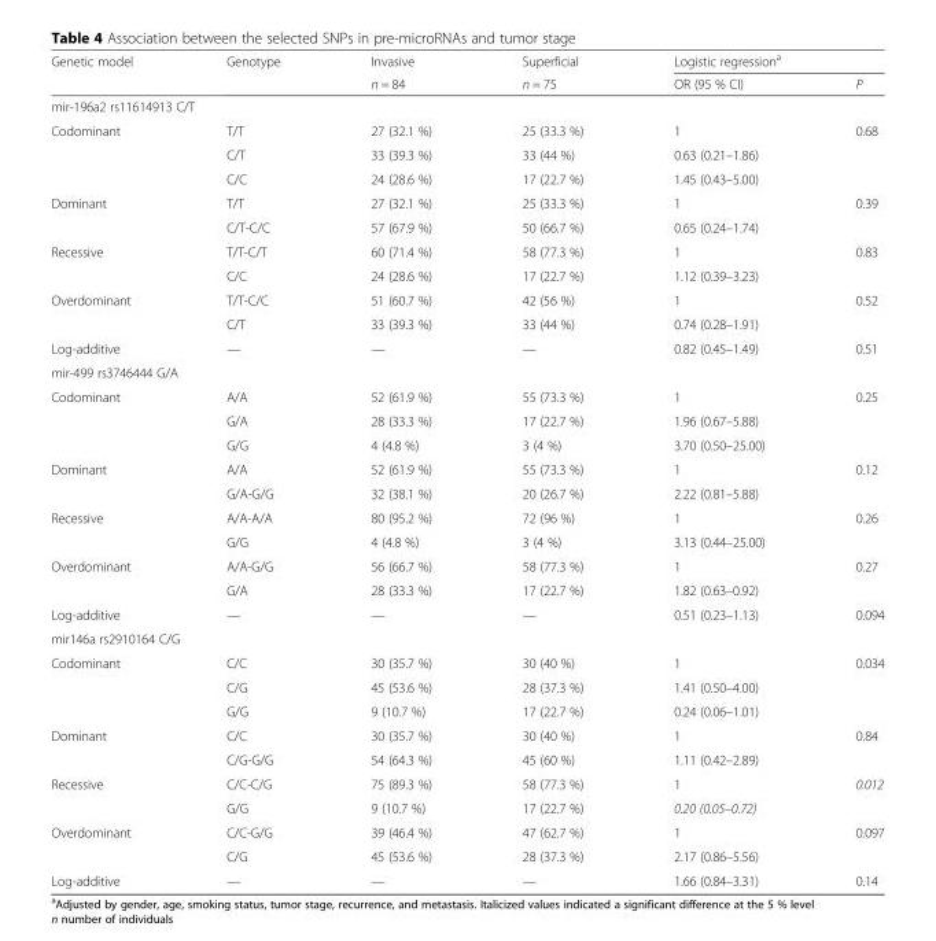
<table><thead><tr><td rowspan="2">Genetic model</td><td rowspan="2">Genotype</td><td rowspan="2">Invasive n = 84</td><td rowspan="2">Superficial n = 75</td><td colspan="2">Logistic regression<sup>a</sup></td></tr><tr><td>OR (95 % CI)</td><td>P</td></tr></thead><tbody><tr><td colspan="6">mir-196a2 rs11614913 C/T</td></tr><tr><td rowspan="3">Codominant</td><td>T/T</td><td>27 (32.1 %)</td><td>25 (33.3 %)</td><td>1</td><td rowspan="3">0.68</td></tr><tr><td>C/T</td><td>33 (39.3 %)</td><td>33 (44 %)</td><td>0.63 (0.21–1.86)</td></tr><tr><td>C/C</td><td>24 (28.6 %)</td><td>17 (22.7 %)</td><td>1.45 (0.43–5.00)</td></tr><tr><td rowspan="2">Dominant</td><td>T/T</td><td>27 (32.1 %)</td><td>25 (33.3 %)</td><td>1</td><td rowspan="2">0.39</td></tr><tr><td>C/T-C/C</td><td>57 (67.9 %)</td><td>50 (66.7 %)</td><td>0.65 (0.24–1.74)</td></tr><tr><td rowspan="2">Recessive</td><td>T/T-C/T</td><td>60 (71.4 %)</td><td>58 (77.3 %)</td><td>1</td><td rowspan="2">0.83</td></tr><tr><td>C/C</td><td>24 (28.6 %)</td><td>17 (22.7 %)</td><td>1.12 (0.39–3.23)</td></tr><tr><td rowspan="2">Overdominant</td><td>T/T-C/C</td><td>51 (60.7 %)</td><td>42 (56 %)</td><td>1</td><td rowspan="2">0.52</td></tr><tr><td>C/T</td><td>33 (39.3 %)</td><td>33 (44 %)</td><td>0.74 (0.28–1.91)</td></tr><tr><td>Log-additive</td><td>—</td><td>—</td><td>—</td><td>0.82 (0.45–1.49)</td><td>0.51</td></tr><tr><td colspan="6">mir-499 rs3746444 G/A</td></tr><tr><td rowspan="3">Codominant</td><td>A/A</td><td>52 (61.9 %)</td><td>55 (73.3 %)</td><td>1</td><td rowspan="3">0.25</td></tr><tr><td>G/A</td><td>28 (33.3 %)</td><td>17 (22.7 %)</td><td>1.96 (0.67–5.88)</td></tr><tr><td>G/G</td><td>4 (4.8 %)</td><td>3 (4 %)</td><td>3.70 (0.50–25.00)</td></tr><tr><td rowspan="2">Dominant</td><td>A/A</td><td>52 (61.9 %)</td><td>55 (73.3 %)</td><td>1</td><td rowspan="2">0.12</td></tr><tr><td>G/A-G/G</td><td>32 (38.1 %)</td><td>20 (26.7 %)</td><td>2.22 (0.81–5.88)</td></tr><tr><td rowspan="2">Recessive</td><td>A/A-A/A</td><td>80 (95.2 %)</td><td>72 (96 %)</td><td>1</td><td rowspan="2">0.26</td></tr><tr><td>G/G</td><td>4 (4.8 %)</td><td>3 (4 %)</td><td>3.13 (0.44–25.00)</td></tr><tr><td rowspan="2">Overdominant</td><td>A/A-G/G</td><td>56 (66.7 %)</td><td>58 (77.3 %)</td><td>1</td><td rowspan="2">0.27</td></tr><tr><td>G/A</td><td>28 (33.3 %)</td><td>17 (22.7 %)</td><td>1.82 (0.63–0.92)</td></tr><tr><td>Log-additive</td><td>—</td><td>—</td><td>—</td><td>0.51 (0.23–1.13)</td><td>0.094</td></tr><tr><td colspan="6">mir146a rs2910164 C/G</td></tr><tr><td rowspan="3">Codominant</td><td>C/C</td><td>30 (35.7 %)</td><td>30 (40 %)</td><td>1</td><td rowspan="3">0.034</td></tr><tr><td>C/G</td><td>45 (53.6 %)</td><td>28 (37.3 %)</td><td>1.41 (0.50–4.00)</td></tr><tr><td>G/G</td><td>9 (10.7 %)</td><td>17 (22.7 %)</td><td>0.24 (0.06–1.01)</td></tr><tr><td rowspan="2">Dominant</td><td>C/C</td><td>30 (35.7 %)</td><td>30 (40 %)</td><td>1</td><td rowspan="2">0.84</td></tr><tr><td>C/G-G/G</td><td>54 (64.3 %)</td><td>45 (60 %)</td><td>1.11 (0.42–2.89)</td></tr><tr><td rowspan="2">Recessive</td><td>C/C-C/G</td><td>75 (89.3 %)</td><td>58 (77.3 %)</td><td>1</td><td rowspan="2">0.012</td></tr><tr><td>G/G</td><td>9 (10.7 %)</td><td>17 (22.7 %)</td><td>0.20 (0.05–0.72)</td></tr><tr><td rowspan="2">Overdominant</td><td>C/C-G/G</td><td>39 (46.4 %)</td><td>47 (62.7 %)</td><td>1</td><td rowspan="2">0.097</td></tr><tr><td>C/G</td><td>45 (53.6 %)</td><td>28 (37.3 %)</td><td>2.17 (0.86–5.56)</td></tr><tr><td>Log-additive</td><td>—</td><td>—</td><td>—</td><td>1.66 (0.84–3.31)</td><td>0.14</td></tr></tbody></table>